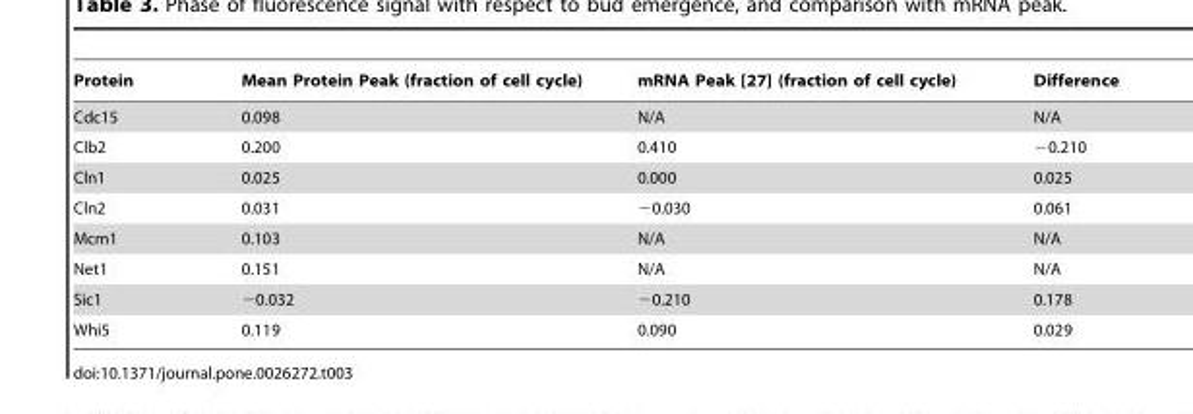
<table><thead><tr><td>Protein</td><td>Mean Protein Peak (fraction of cell cycle)</td><td>mRNA Peak [27] (fraction of cell cycle)</td><td>Difference</td></tr></thead><tbody><tr><td>Cdc15</td><td>0.098</td><td>N/A</td><td>N/A</td></tr><tr><td>Clb2</td><td>0.200</td><td>0.410</td><td>−0.210</td></tr><tr><td>Cln1</td><td>0.025</td><td>0.000</td><td>0.025</td></tr><tr><td>Cln2</td><td>0.031</td><td>−0.030</td><td>0.061</td></tr><tr><td>Mcm1</td><td>0.103</td><td>N/A</td><td>N/A</td></tr><tr><td>Net1</td><td>0.151</td><td>N/A</td><td>N/A</td></tr><tr><td>Sic1</td><td>−0.032</td><td>−0.210</td><td>0.178</td></tr><tr><td>Whi5</td><td>0.119</td><td>0.090</td><td>0.029</td></tr></tbody></table>